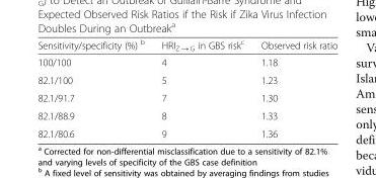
<table><thead><tr><td>Sensitivity/specificity (%) <sup>b</sup></td><td>HRI<sub>Z → G</sub> in GBS risk<sup>c</sup></td><td>Observed risk ratio</td></tr></thead><tbody><tr><td>100/100</td><td>4</td><td>1.18</td></tr><tr><td>82.1/100</td><td>5</td><td>1.23</td></tr><tr><td>82.1/91.7</td><td>7</td><td>1.30</td></tr><tr><td>82.1/88.9</td><td>8</td><td>1.33</td></tr><tr><td>82.1/80.6</td><td>9</td><td>1.36</td></tr></tbody></table>